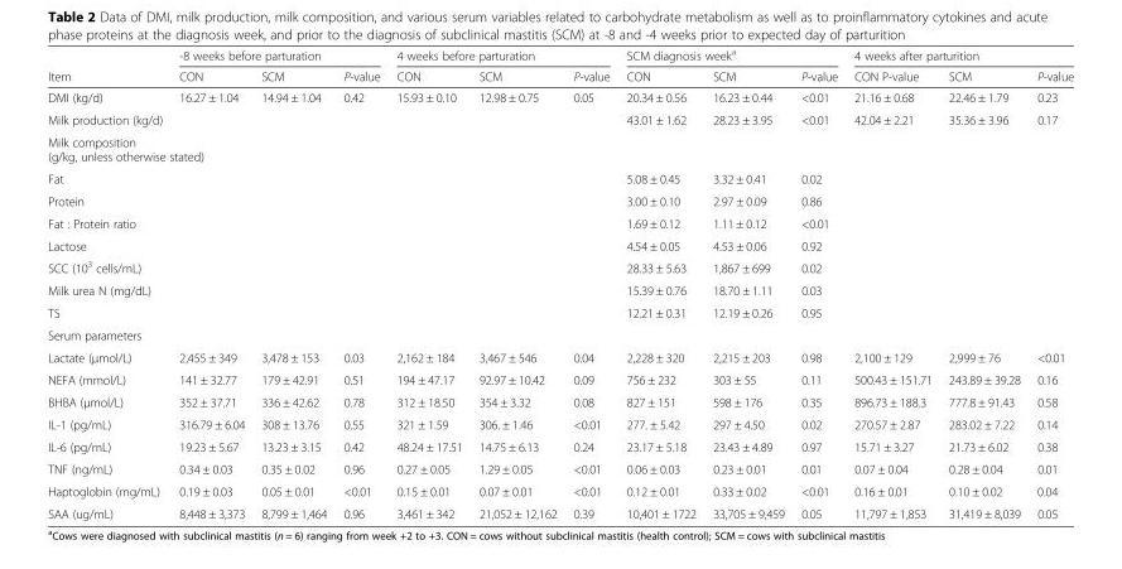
<table><thead><tr><td rowspan="2">Item</td><td colspan="3">-8 weeks before parturation</td><td colspan="3">4 weeks before parturation</td><td colspan="3">SCM diagnosis week<sup>a</sup></td><td colspan="3">4 weeks after parturition</td></tr><tr><td>CON</td><td>SCM</td><td>P-value</td><td>CON</td><td>SCM</td><td>P-value</td><td>CON</td><td>SCM</td><td>P-value</td><td>CON P-value</td><td>SCM</td><td>P-value</td></tr></thead><tbody><tr><td>DMI (kg/d)</td><td>16.27 ± 1.04</td><td>14.94 ± 1.04</td><td>0.42</td><td>15.93 ± 0.10</td><td>12.98 ± 0.75</td><td>0.05</td><td>20.34 ± 0.56</td><td>16.23 ± 0.44</td><td>&lt;0.01</td><td>21.16 ± 0.68</td><td>22.46 ± 1.79</td><td>0.23</td></tr><tr><td>Milk production (kg/d)</td><td></td><td></td><td></td><td></td><td></td><td></td><td>43.01 ± 1.62</td><td>28.23 ± 3.95</td><td>&lt;0.01</td><td>42.04 ± 2.21</td><td>35.36 ± 3.96</td><td>0.17</td></tr><tr><td colspan="13">Milk composition (g/kg, unless otherwise stated)</td></tr><tr><td>Fat</td><td></td><td></td><td></td><td></td><td></td><td></td><td>5.08 ± 0.45</td><td>3.32 ± 0.41</td><td>0.02</td><td></td><td></td><td></td></tr><tr><td>Protein</td><td></td><td></td><td></td><td></td><td></td><td></td><td>3.00 ± 0.10</td><td>2.97 ± 0.09</td><td>0.86</td><td></td><td></td><td></td></tr><tr><td>Fat : Protein ratio</td><td></td><td></td><td></td><td></td><td></td><td></td><td>1.69 ± 0.12</td><td>1.11 ± 0.12</td><td>&lt;0.01</td><td></td><td></td><td></td></tr><tr><td>Lactose</td><td></td><td></td><td></td><td></td><td></td><td></td><td>4.54 ± 0.05</td><td>4.53 ± 0.06</td><td>0.92</td><td></td><td></td><td></td></tr><tr><td>SCC (10<sup>3</sup> cells/mL)</td><td></td><td></td><td></td><td></td><td></td><td></td><td>28.33 ± 5.63</td><td>1,867 ± 699</td><td>0.02</td><td></td><td></td><td></td></tr><tr><td>Milk urea N (mg/dL)</td><td></td><td></td><td></td><td></td><td></td><td></td><td>15.39 ± 0.76</td><td>18.70 ± 1.11</td><td>0.03</td><td></td><td></td><td></td></tr><tr><td>TS</td><td></td><td></td><td></td><td></td><td></td><td></td><td>12.21 ± 0.31</td><td>12.19 ± 0.26</td><td>0.95</td><td></td><td></td><td></td></tr><tr><td colspan="13">Serum parameters</td></tr><tr><td>Lactate (μmol/L)</td><td>2,455 ± 349</td><td>3,478 ± 153</td><td>0.03</td><td>2,162 ± 184</td><td>3,467 ± 546</td><td>0.04</td><td>2,228 ± 320</td><td>2,215 ± 203</td><td>0.98</td><td>2,100 ± 129</td><td>2,999 ± 76</td><td>&lt;0.01</td></tr><tr><td>NEFA (mmol/L)</td><td>141 ± 32.77</td><td>179 ± 42.91</td><td>0.51</td><td>194 ± 47.17</td><td>92.97 ± 10.42</td><td>0.09</td><td>756 ± 232</td><td>303 ± 55</td><td>0.11</td><td>500.43 ± 151.71</td><td>243.89 ± 39.28</td><td>0.16</td></tr><tr><td>BHBA (μmol/L)</td><td>352 ± 37.71</td><td>336 ± 42.62</td><td>0.78</td><td>312 ± 18.50</td><td>354 ± 3.32</td><td>0.08</td><td>827 ± 151</td><td>598 ± 176</td><td>0.35</td><td>896.73 ± 188.3</td><td>777.8 ± 91.43</td><td>0.58</td></tr><tr><td>IL-1 (pg/mL)</td><td>316.79 ± 6.04</td><td>308 ± 13.76</td><td>0.55</td><td>321 ± 1.59</td><td>306. ± 1.46</td><td>&lt;0.01</td><td>277. ± 5.42</td><td>297 ± 4.50</td><td>0.02</td><td>270.57 ± 2.87</td><td>283.02 ± 7.22</td><td>0.14</td></tr><tr><td>IL-6 (pg/mL)</td><td>19.23 ± 5.67</td><td>13.23 ± 3.15</td><td>0.42</td><td>48.24 ± 17.51</td><td>14.75 ± 6.13</td><td>0.24</td><td>23.17 ± 5.18</td><td>23.43 ± 4.89</td><td>0.97</td><td>15.71 ± 3.27</td><td>21.73 ± 6.02</td><td>0.38</td></tr><tr><td>TNF (ng/mL)</td><td>0.34 ± 0.03</td><td>0.35 ± 0.02</td><td>0.96</td><td>0.27 ± 0.05</td><td>1.29 ± 0.05</td><td>&lt;0.01</td><td>0.06 ± 0.03</td><td>0.23 ± 0.01</td><td>0.01</td><td>0.07 ± 0.04</td><td>0.28 ± 0.04</td><td>0.01</td></tr><tr><td>Haptoglobin (mg/mL)</td><td>0.19 ± 0.03</td><td>0.05 ± 0.01</td><td>&lt;0.01</td><td>0.15 ± 0.01</td><td>0.07 ± 0.01</td><td>&lt;0.01</td><td>0.12 ± 0.01</td><td>0.33 ± 0.02</td><td>&lt;0.01</td><td>0.16 ± 0.01</td><td>0.10 ± 0.02</td><td>0.04</td></tr><tr><td>SAA (ug/mL)</td><td>8,448 ± 3,373</td><td>8,799 ± 1,464</td><td>0.96</td><td>3,461 ± 342</td><td>21,052 ± 12,162</td><td>0.39</td><td>10,401 ± 1722</td><td>33,705 ± 9,459</td><td>0.05</td><td>11,797 ± 1,853</td><td>31,419 ± 8,039</td><td>0.05</td></tr></tbody></table>